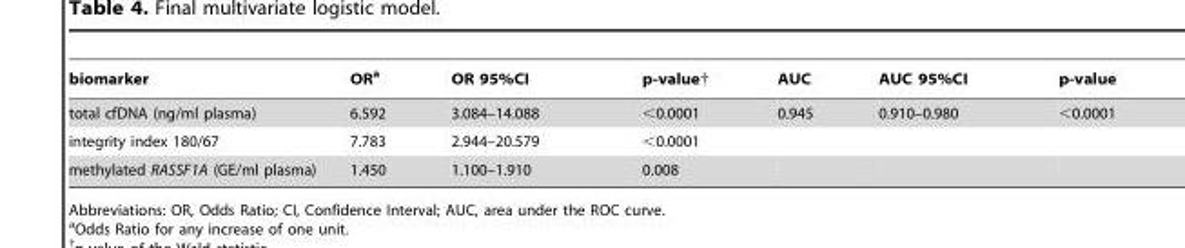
<table><thead><tr><td>biomarker</td><td>OR<sup>a</sup></td><td>OR 95%CI</td><td>p-value†</td><td>AUC</td><td>AUC 95%CI</td><td>p-value</td></tr></thead><tbody><tr><td>total cfDNA (ng/ml plasma)</td><td>6.592</td><td>3.084–14.088</td><td>&lt;0.0001</td><td>0.945</td><td>0.910–0.980</td><td>&lt;0.0001</td></tr><tr><td>integrity index 180/67</td><td>7.783</td><td>2.944–20.579</td><td>&lt;0.0001</td><td></td><td></td><td></td></tr><tr><td>methylated RASSF1A (GE/ml plasma)</td><td>1.450</td><td>1.100–1.910</td><td>0.008</td><td></td><td></td><td></td></tr></tbody></table>